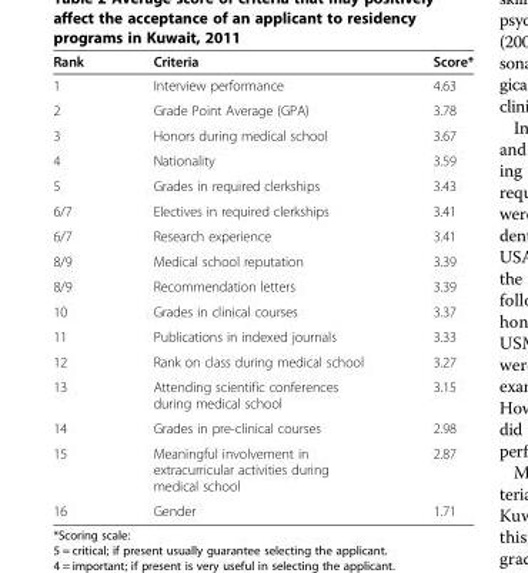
<table><thead><tr><td>Rank</td><td>Criteria</td><td>Score*</td></tr></thead><tbody><tr><td>1</td><td>Interview performance</td><td>4.63</td></tr><tr><td>2</td><td>Grade Point Average (GPA)</td><td>3.78</td></tr><tr><td>3</td><td>Honors during medical school</td><td>3.67</td></tr><tr><td>4</td><td>Nationality</td><td>3.59</td></tr><tr><td>5</td><td>Grades in required clerkships</td><td>3.43</td></tr><tr><td>6/7</td><td>Electives in required clerkships</td><td>3.41</td></tr><tr><td>6/7</td><td>Research experience</td><td>3.41</td></tr><tr><td>8/9</td><td>Medical school reputation</td><td>3.39</td></tr><tr><td>8/9</td><td>Recommendation letters</td><td>3.39</td></tr><tr><td>10</td><td>Grades in clinical courses</td><td>3.37</td></tr><tr><td>11</td><td>Publications in indexed journals</td><td>3.33</td></tr><tr><td>12</td><td>Rank on class during medical school</td><td>3.27</td></tr><tr><td>13</td><td>Attending scientific conferences during medical school</td><td>3.15</td></tr><tr><td>14</td><td>Grades in pre-clinical courses</td><td>2.98</td></tr><tr><td>15</td><td>Meaningful involvement in extracurricular activities during medical school</td><td>2.87</td></tr><tr><td>16</td><td>Gender</td><td>1.71</td></tr></tbody></table>